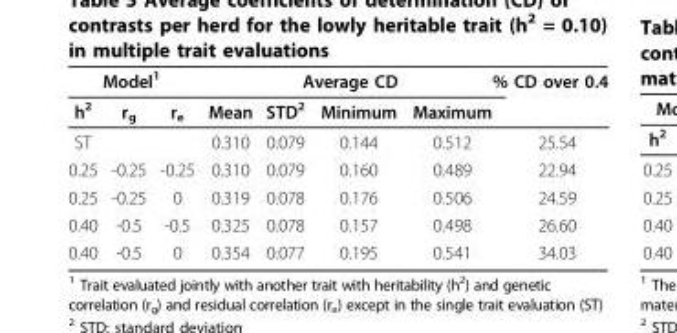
<table><thead><tr><td colspan="3">Model<sup>1</sup></td><td colspan="4">Average CD</td><td rowspan="2">% CD over 0.4</td></tr><tr><td>h<sup>2</sup></td><td>r<sub>g</sub></td><td>r<sub>e</sub></td><td>Mean</td><td>STD<sup>2</sup></td><td>Minimum</td><td>Maximum</td></tr></thead><tbody><tr><td>ST</td><td></td><td></td><td>0.310</td><td>0.079</td><td>0.144</td><td>0.512</td><td>25.54</td></tr><tr><td>0.25</td><td>-0.25</td><td>-0.25</td><td>0.310</td><td>0.079</td><td>0.160</td><td>0.489</td><td>22.94</td></tr><tr><td>0.25</td><td>-0.25</td><td>0</td><td>0.319</td><td>0.078</td><td>0.176</td><td>0.506</td><td>24.59</td></tr><tr><td>0.40</td><td>-0.5</td><td>-0.5</td><td>0.325</td><td>0.078</td><td>0.157</td><td>0.498</td><td>26.60</td></tr><tr><td>0.40</td><td>-0.5</td><td>0</td><td>0.354</td><td>0.077</td><td>0.195</td><td>0.541</td><td>34.03</td></tr></tbody></table>